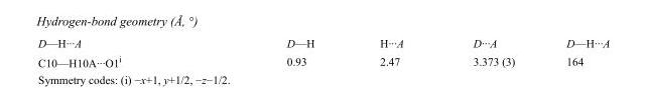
<table><tbody><tr><td>D—H···A</td><td>D—H</td><td>H···A</td><td>D···A</td><td>D—H···A</td></tr><tr><td>C10—H10A···O1<sup>i</sup></td><td>0.93</td><td>2.47</td><td>3.373 (3)</td><td>164</td></tr></tbody></table>